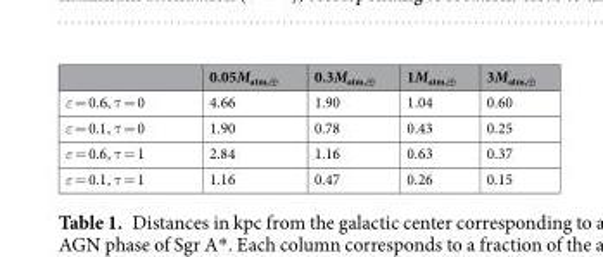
<table><thead><tr><td></td><td>0.05M<sub>atm,⊕</sub></td><td>0.3M<sub>atm,⊕</sub></td><td>1M<sub>atm,⊕</sub></td><td>3M<sub>atm,⊕</sub></td></tr></thead><tbody><tr><td>ε = 0.6, τ = 0</td><td>4.66</td><td>1.90</td><td>1.04</td><td>0.60</td></tr><tr><td>ε = 0.1, τ = 0</td><td>1.90</td><td>0.78</td><td>0.43</td><td>0.25</td></tr><tr><td>ε = 0.6, τ = 1</td><td>2.84</td><td>1.16</td><td>0.63</td><td>0.37</td></tr><tr><td>ε = 0.1, τ = 1</td><td>1.16</td><td>0.47</td><td>0.26</td><td>0.15</td></tr></tbody></table>